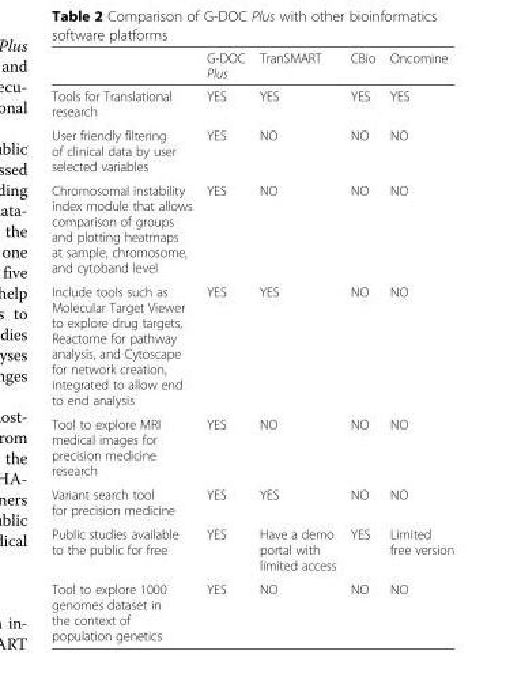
<table><thead><tr><td></td><td>G-DOC Plus</td><td>TranSMART</td><td>CBio</td><td>Oncomine</td></tr></thead><tbody><tr><td>Tools for Translational research</td><td>YES</td><td>YES</td><td>YES</td><td>YES</td></tr><tr><td>User friendly filtering of clinical data by user selected variables</td><td>YES</td><td>NO</td><td>NO</td><td>NO</td></tr><tr><td>Chromosomal instability index module that allows comparison of groups and plotting heatmaps at sample, chromosome, and cytoband level</td><td>YES</td><td>NO</td><td>NO</td><td>NO</td></tr><tr><td>Include tools such as Molecular Target Viewer to explore drug targets, Reactome for pathway analysis, and Cytoscape for network creation, integrated to allow end to end analysis</td><td>YES</td><td>YES</td><td>NO</td><td>NO</td></tr><tr><td>Tool to explore MRI medical images for precision medicine research</td><td>YES</td><td>NO</td><td>NO</td><td>NO</td></tr><tr><td>Variant search tool for precision medicine</td><td>YES</td><td>YES</td><td>NO</td><td>NO</td></tr><tr><td>Public studies available to the public for free</td><td>YES</td><td>Have a demo portal with limited access</td><td>YES</td><td>Limited free version</td></tr><tr><td>Tool to explore 1000 genomes dataset in the context of population genetics</td><td>YES</td><td>NO</td><td>NO</td><td>NO</td></tr></tbody></table>